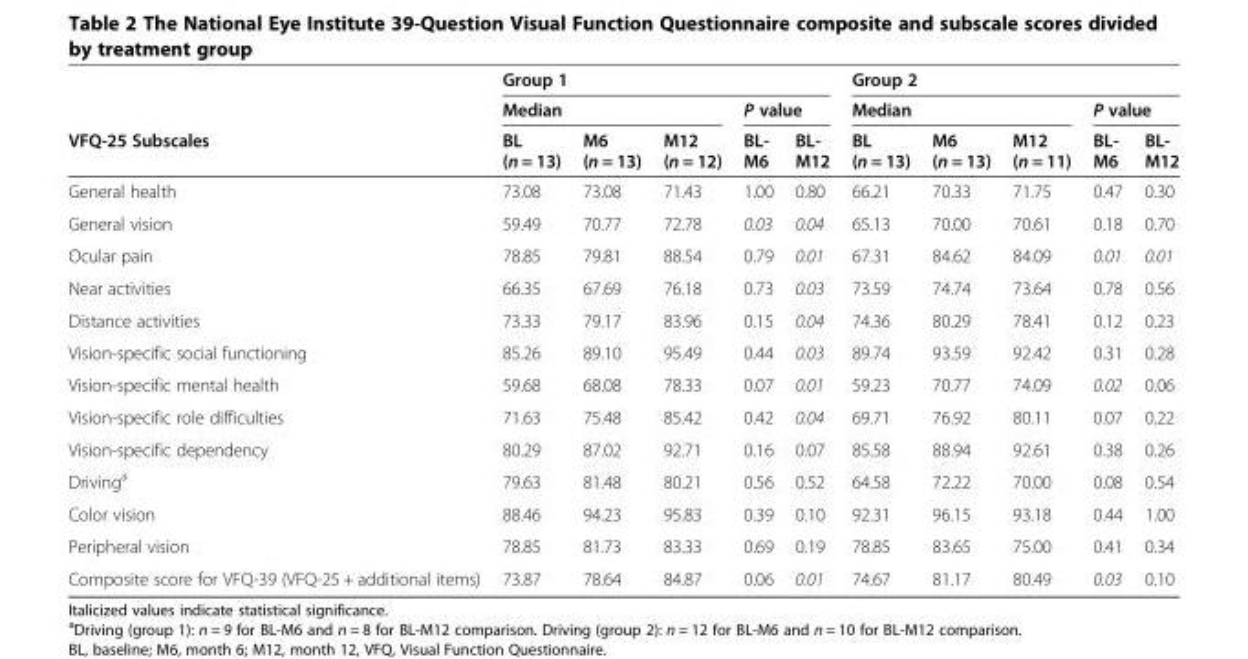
<table><thead><tr><td rowspan="3">VFQ-25 Subscales</td><td colspan="5">Group 1</td><td colspan="5">Group 2</td></tr><tr><td colspan="3">Median</td><td colspan="2">P value</td><td colspan="3">Median</td><td colspan="2">P value</td></tr><tr><td>BL (n = 13)</td><td>M6 (n = 13)</td><td>M12 (n = 12)</td><td>BL- M6</td><td>BL- M12</td><td>BL (n = 13)</td><td>M6 (n = 13)</td><td>M12 (n = 11)</td><td>BL- M6</td><td>BL- M12</td></tr></thead><tbody><tr><td>General health</td><td>73.08</td><td>73.08</td><td>71.43</td><td>1.00</td><td>0.80</td><td>66.21</td><td>70.33</td><td>71.75</td><td>0.47</td><td>0.30</td></tr><tr><td>General vision</td><td>59.49</td><td>70.77</td><td>72.78</td><td>0.03</td><td>0.04</td><td>65.13</td><td>70.00</td><td>70.61</td><td>0.18</td><td>0.70</td></tr><tr><td>Ocular pain</td><td>78.85</td><td>79.81</td><td>88.54</td><td>0.79</td><td>0.01</td><td>67.31</td><td>84.62</td><td>84.09</td><td>0.01</td><td>0.01</td></tr><tr><td>Near activities</td><td>66.35</td><td>67.69</td><td>76.18</td><td>0.73</td><td>0.03</td><td>73.59</td><td>74.74</td><td>73.64</td><td>0.78</td><td>0.56</td></tr><tr><td>Distance activities</td><td>73.33</td><td>79.17</td><td>83.96</td><td>0.15</td><td>0.04</td><td>74.36</td><td>80.29</td><td>78.41</td><td>0.12</td><td>0.23</td></tr><tr><td>Vision-specific social functioning</td><td>85.26</td><td>89.10</td><td>95.49</td><td>0.44</td><td>0.03</td><td>89.74</td><td>93.59</td><td>92.42</td><td>0.31</td><td>0.28</td></tr><tr><td>Vision-specific mental health</td><td>59.68</td><td>68.08</td><td>78.33</td><td>0.07</td><td>0.01</td><td>59.23</td><td>70.77</td><td>74.09</td><td>0.02</td><td>0.06</td></tr><tr><td>Vision-specific role difficulties</td><td>71.63</td><td>75.48</td><td>85.42</td><td>0.42</td><td>0.04</td><td>69.71</td><td>76.92</td><td>80.11</td><td>0.07</td><td>0.22</td></tr><tr><td>Vision-specific dependency</td><td>80.29</td><td>87.02</td><td>92.71</td><td>0.16</td><td>0.07</td><td>85.58</td><td>88.94</td><td>92.61</td><td>0.38</td><td>0.26</td></tr><tr><td>Driving<sup>a</sup></td><td>79.63</td><td>81.48</td><td>80.21</td><td>0.56</td><td>0.52</td><td>64.58</td><td>72.22</td><td>70.00</td><td>0.08</td><td>0.54</td></tr><tr><td>Color vision</td><td>88.46</td><td>94.23</td><td>95.83</td><td>0.39</td><td>0.10</td><td>92.31</td><td>96.15</td><td>93.18</td><td>0.44</td><td>1.00</td></tr><tr><td>Peripheral vision</td><td>78.85</td><td>81.73</td><td>83.33</td><td>0.69</td><td>0.19</td><td>78.85</td><td>83.65</td><td>75.00</td><td>0.41</td><td>0.34</td></tr><tr><td>Composite score for VFQ-39 (VFQ-25 + additional items)</td><td>73.87</td><td>78.64</td><td>84.87</td><td>0.06</td><td>0.01</td><td>74.67</td><td>81.17</td><td>80.49</td><td>0.03</td><td>0.10</td></tr></tbody></table>